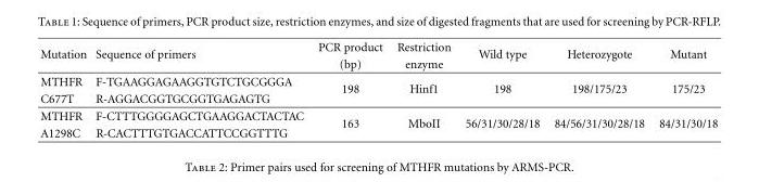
<table><thead><tr><td rowspan="2">Mutation</td><td rowspan="2">Sequence of primers</td><td rowspan="2">PCR product (bp)</td><td rowspan="2">Restriction enzyme</td><td rowspan="2">Wild type</td><td rowspan="2">Heterozygote</td><td rowspan="2">Mutant</td></tr><tr></tr></thead><tbody><tr><td>MTHFR</td><td>F-TGAAGGAGAAGGTGTCTGCGGGA</td><td rowspan="2">198</td><td rowspan="2">Hinf1</td><td rowspan="2">198</td><td rowspan="2">198/175/23</td><td rowspan="2">175/23</td></tr><tr><td>C677T</td><td>R-AGGACGGTGCGGTGAGAGTG</td></tr><tr><td>MTHFR</td><td>F-CTTTGGGGAGCTGAAGGACTACTAC</td><td rowspan="2">163</td><td rowspan="2">MboII</td><td rowspan="2">56/31/30/28/18</td><td rowspan="2">84/56/31/30/28/18</td><td rowspan="2">84/31/30/18</td></tr><tr><td>A1298C</td><td>R-CACTTTGTGACCATTCCGGTTTG</td></tr></tbody></table>